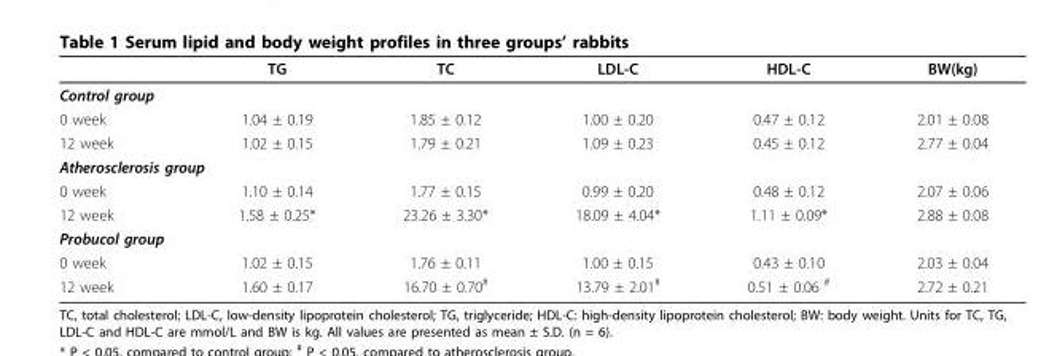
<table><thead><tr><td></td><td>TG</td><td>TC</td><td>LDL-C</td><td>HDL-C</td><td>BW(kg)</td></tr></thead><tbody><tr><td colspan="6">Control group</td></tr><tr><td>0 week</td><td>1.04 ± 0.19</td><td>1.85 ± 0.12</td><td>1.00 ± 0.20</td><td>0.47 ± 0.12</td><td>2.01 ± 0.08</td></tr><tr><td>12 week</td><td>1.02 ± 0.15</td><td>1.79 ± 0.21</td><td>1.09 ± 0.23</td><td>0.45 ± 0.12</td><td>2.77 ± 0.04</td></tr><tr><td colspan="6">Atherosclerosis group</td></tr><tr><td>0 week</td><td>1.10 ± 0.14</td><td>1.77 ± 0.15</td><td>0.99 ± 0.20</td><td>0.48 ± 0.12</td><td>2.07 ± 0.06</td></tr><tr><td>12 week</td><td>1.58 ± 0.25*</td><td>23.26 ± 3.30*</td><td>18.09 ± 4.04*</td><td>1.11 ± 0.09*</td><td>2.88 ± 0.08</td></tr><tr><td colspan="6">Probucol group</td></tr><tr><td>0 week</td><td>1.02 ± 0.15</td><td>1.76 ± 0.11</td><td>1.00 ± 0.15</td><td>0.43 ± 0.10</td><td>2.03 ± 0.04</td></tr><tr><td>12 week</td><td>1.60 ± 0.17</td><td>16.70 ± 0.70<sup>#</sup></td><td>13.79 ± 2.01<sup>#</sup></td><td>0.51 ± 0.06 <sup>#</sup></td><td>2.72 ± 0.21</td></tr></tbody></table>